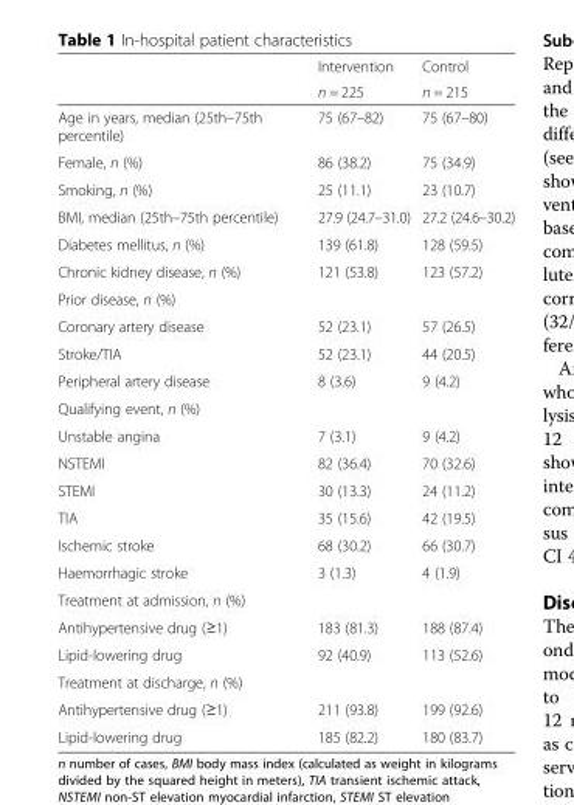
<table><thead><tr><td rowspan="2"></td><td rowspan="2">Intervention n = 225</td><td rowspan="2">Control n = 215</td></tr><tr></tr></thead><tbody><tr><td>Age in years, median (25th–75th percentile)</td><td>75 (67–82)</td><td>75 (67–80)</td></tr><tr><td>Female, n (%)</td><td>86 (38.2)</td><td>75 (34.9)</td></tr><tr><td>Smoking, n (%)</td><td>25 (11.1)</td><td>23 (10.7)</td></tr><tr><td>BMI, median (25th–75th percentile)</td><td>27.9 (24.7–31.0)</td><td>27.2 (24.6–30.2)</td></tr><tr><td>Diabetes mellitus, n (%)</td><td>139 (61.8)</td><td>128 (59.5)</td></tr><tr><td>Chronic kidney disease, n (%)</td><td>121 (53.8)</td><td>123 (57.2)</td></tr><tr><td colspan="3">Prior disease, n (%)</td></tr><tr><td>Coronary artery disease</td><td>52 (23.1)</td><td>57 (26.5)</td></tr><tr><td>Stroke/TIA</td><td>52 (23.1)</td><td>44 (20.5)</td></tr><tr><td>Peripheral artery disease</td><td>8 (3.6)</td><td>9 (4.2)</td></tr><tr><td colspan="3">Qualifying event, n (%)</td></tr><tr><td>Unstable angina</td><td>7 (3.1)</td><td>9 (4.2)</td></tr><tr><td>NSTEMI</td><td>82 (36.4)</td><td>70 (32.6)</td></tr><tr><td>STEMI</td><td>30 (13.3)</td><td>24 (11.2)</td></tr><tr><td>TIA</td><td>35 (15.6)</td><td>42 (19.5)</td></tr><tr><td>Ischemic stroke</td><td>68 (30.2)</td><td>66 (30.7)</td></tr><tr><td>Haemorrhagic stroke</td><td>3 (1.3)</td><td>4 (1.9)</td></tr><tr><td colspan="3">Treatment at admission, n (%)</td></tr><tr><td>Antihypertensive drug (≥1)</td><td>183 (81.3)</td><td>188 (87.4)</td></tr><tr><td>Lipid-lowering drug</td><td>92 (40.9)</td><td>113 (52.6)</td></tr><tr><td colspan="3">Treatment at discharge, n (%)</td></tr><tr><td>Antihypertensive drug (≥1)</td><td>211 (93.8)</td><td>199 (92.6)</td></tr><tr><td>Lipid-lowering drug</td><td>185 (82.2)</td><td>180 (83.7)</td></tr></tbody></table>